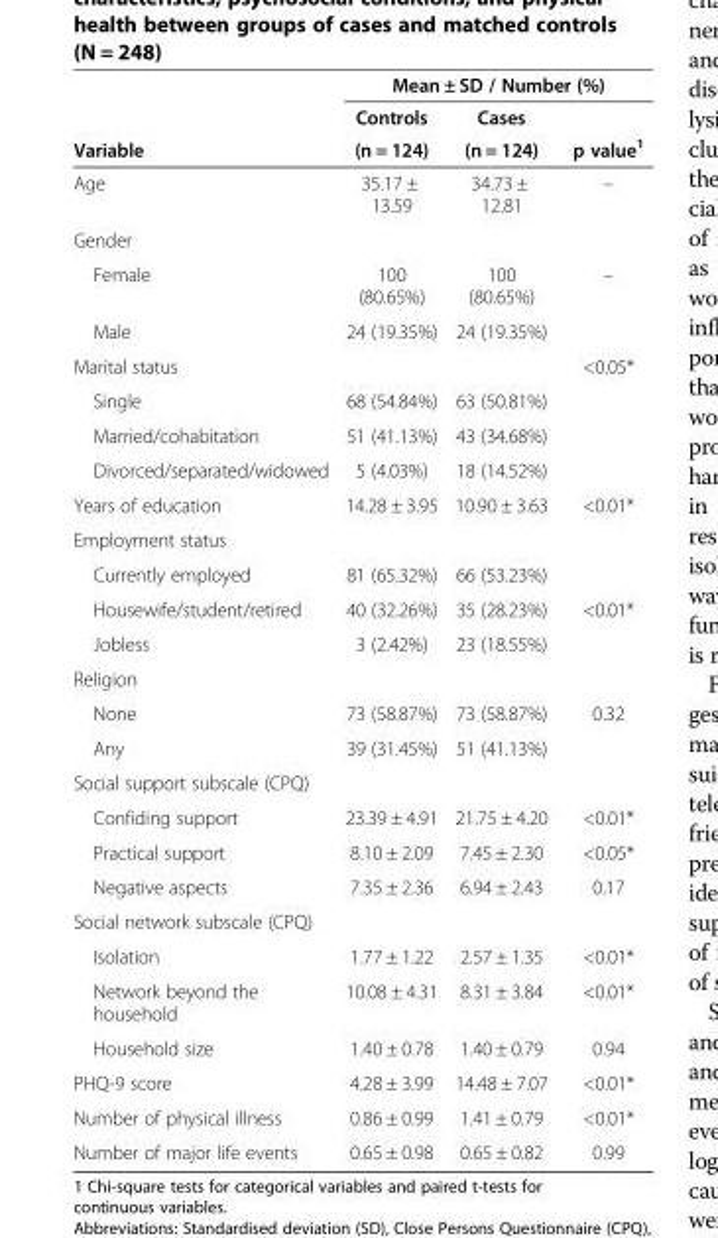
<table><thead><tr><td rowspan="3">Variable</td><td colspan="3">Mean ± SD / Number (%)</td></tr><tr><td rowspan="2">Controls (n = 124)</td><td rowspan="2">Cases (n = 124)</td><td rowspan="2">p value<sup>1</sup></td></tr><tr></tr></thead><tbody><tr><td>Age</td><td>35.17 ± 13.59</td><td>34.73 ± 12.81</td><td>–</td></tr><tr><td colspan="4">Gender</td></tr><tr><td>Female</td><td>100 (80.65%)</td><td>100 (80.65%)</td><td>–</td></tr><tr><td>Male</td><td>24 (19.35%)</td><td>24 (19.35%)</td><td></td></tr><tr><td>Marital status</td><td></td><td></td><td>&lt;0.05*</td></tr><tr><td>Single</td><td>68 (54.84%)</td><td>63 (50.81%)</td><td></td></tr><tr><td>Married/cohabitation</td><td>51 (41.13%)</td><td>43 (34.68%)</td><td></td></tr><tr><td>Divorced/separated/widowed</td><td>5 (4.03%)</td><td>18 (14.52%)</td><td></td></tr><tr><td>Years of education</td><td>14.28 ± 3.95</td><td>10.90 ± 3.63</td><td>&lt;0.01*</td></tr><tr><td colspan="4">Employment status</td></tr><tr><td>Currently employed</td><td>81 (65.32%)</td><td>66 (53.23%)</td><td></td></tr><tr><td>Housewife/student/retired</td><td>40 (32.26%)</td><td>35 (28.23%)</td><td>&lt;0.01*</td></tr><tr><td>Jobless</td><td>3 (2.42%)</td><td>23 (18.55%)</td><td></td></tr><tr><td colspan="4">Religion</td></tr><tr><td>None</td><td>73 (58.87%)</td><td>73 (58.87%)</td><td>0.32</td></tr><tr><td>Any</td><td>39 (31.45%)</td><td>51 (41.13%)</td><td></td></tr><tr><td colspan="4">Social support subscale (CPQ)</td></tr><tr><td>Confiding support</td><td>23.39 ± 4.91</td><td>21.75 ± 4.20</td><td>&lt;0.01*</td></tr><tr><td>Practical support</td><td>8.10 ± 2.09</td><td>7.45 ± 2.30</td><td>&lt;0.05*</td></tr><tr><td>Negative aspects</td><td>7.35 ± 2.36</td><td>6.94 ± 2.43</td><td>0.17</td></tr><tr><td colspan="4">Social network subscale (CPQ)</td></tr><tr><td>Isolation</td><td>1.77 ± 1.22</td><td>2.57 ± 1.35</td><td>&lt;0.01*</td></tr><tr><td>Network beyond the household</td><td>10.08 ± 4.31</td><td>8.31 ± 3.84</td><td>&lt;0.01*</td></tr><tr><td>Household size</td><td>1.40 ± 0.78</td><td>1.40 ± 0.79</td><td>0.94</td></tr><tr><td>PHQ-9 score</td><td>4.28 ± 3.99</td><td>14.48 ± 7.07</td><td>&lt;0.01*</td></tr><tr><td>Number of physical illness</td><td>0.86 ± 0.99</td><td>1.41 ± 0.79</td><td>&lt;0.01*</td></tr><tr><td>Number of major life events</td><td>0.65 ± 0.98</td><td>0.65 ± 0.82</td><td>0.99</td></tr></tbody></table>